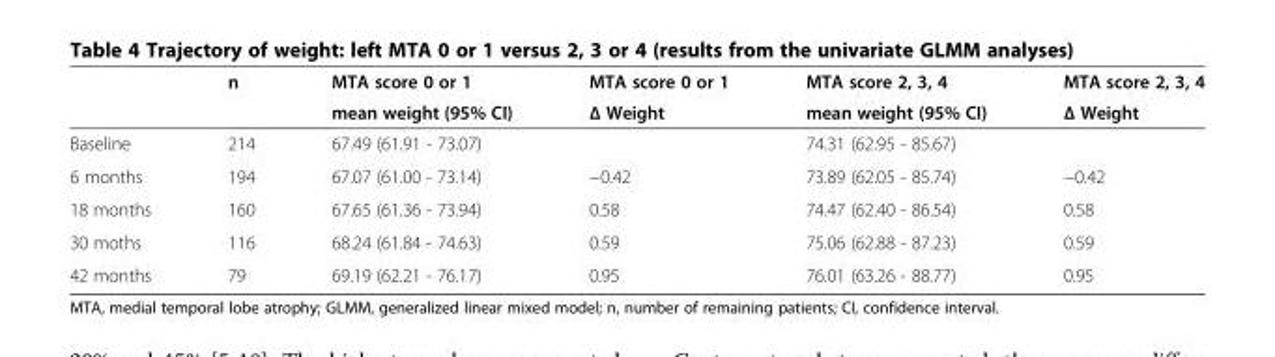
<table><thead><tr><td rowspan="2"></td><td rowspan="2">n</td><td rowspan="2">MTA score 0 or 1 mean weight (95% CI)</td><td rowspan="2">MTA score 0 or 1 Δ Weight</td><td rowspan="2">MTA score 2, 3, 4 mean weight (95% CI)</td><td rowspan="2">MTA score 2, 3, 4 Δ Weight</td></tr><tr></tr></thead><tbody><tr><td>Baseline</td><td>214</td><td>67.49 (61.91 - 73.07)</td><td></td><td>74.31 (62.95 - 85.67)</td><td></td></tr><tr><td>6 months</td><td>194</td><td>67.07 (61.00 - 73.14)</td><td>−0.42</td><td>73.89 (62.05 - 85.74)</td><td>−0.42</td></tr><tr><td>18 months</td><td>160</td><td>67.65 (61.36 - 73.94)</td><td>0.58</td><td>74.47 (62.40 - 86.54)</td><td>0.58</td></tr><tr><td>30 moths</td><td>116</td><td>68.24 (61.84 - 74.63)</td><td>0.59</td><td>75.06 (62.88 - 87.23)</td><td>0.59</td></tr><tr><td>42 months</td><td>79</td><td>69.19 (62.21 - 76.17)</td><td>0.95</td><td>76.01 (63.26 - 88.77)</td><td>0.95</td></tr></tbody></table>